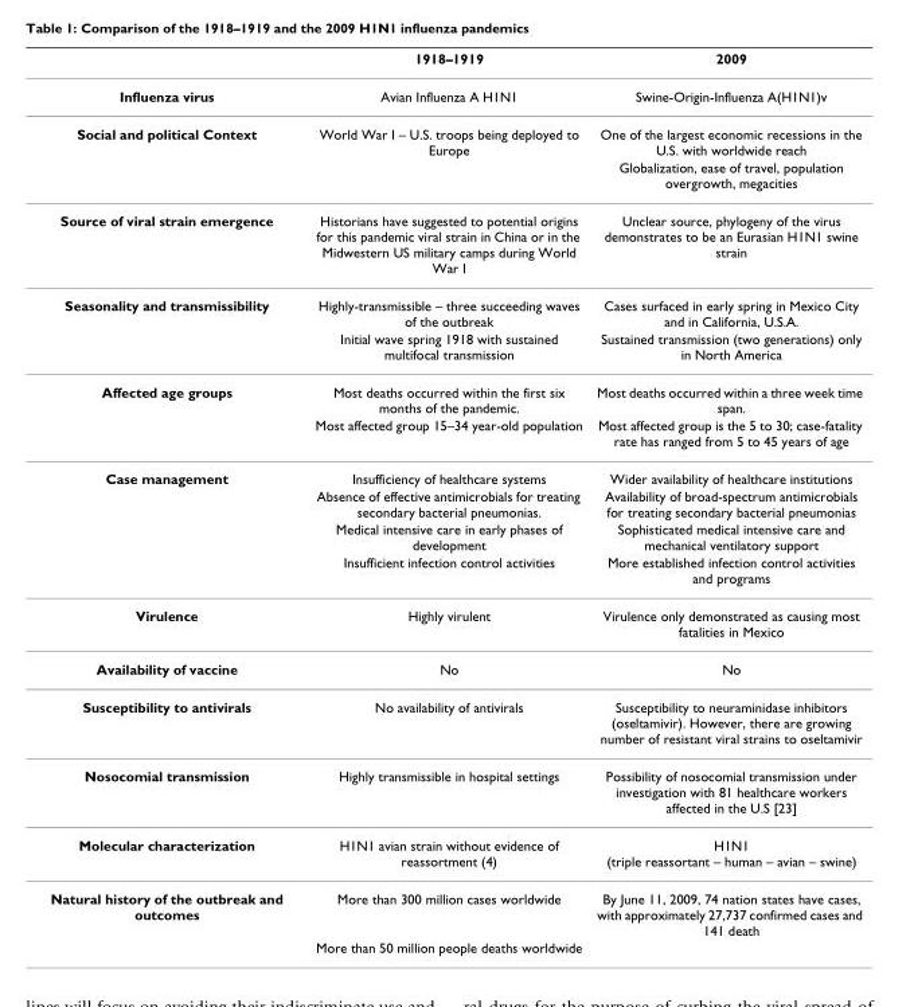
<table><thead><tr><td></td><td>1918–1919</td><td>2009</td></tr></thead><tbody><tr><td>Influenza virus</td><td>Avian Influenza A H1N1</td><td>Swine-Origin-Influenza A(H1N1)v</td></tr><tr><td rowspan="2">Social and political Context</td><td>World War I – U.S. troops being deployed to Europe</td><td>One of the largest economic recessions in the U.S. with worldwide reach</td></tr><tr><td></td><td>Globalization, ease of travel, population overgrowth, megacities</td></tr><tr><td>Source of viral strain emergence</td><td>Historians have suggested to potential origins for this pandemic viral strain in China or in the Midwestern US military camps during World War I</td><td>Unclear source, phylogeny of the virus demonstrates to be an Eurasian H1N1 swine strain</td></tr><tr><td rowspan="2">Seasonality and transmissibility</td><td>Highly-transmissible – three succeeding waves of the outbreak</td><td>Cases surfaced in early spring in Mexico City and in California, U.S.A.</td></tr><tr><td>Initial wave spring 1918 with sustained multifocal transmission</td><td>Sustained transmission (two generations) only in North America</td></tr><tr><td rowspan="2">Affected age groups</td><td>Most deaths occurred within the first six months of the pandemic.</td><td>Most deaths occurred within a three week time span.</td></tr><tr><td>Most affected group 15–34 year-old population</td><td>Most affected group is the 5 to 30; case-fatality rate has ranged from 5 to 45 years of age</td></tr><tr><td rowspan="4">Case management</td><td>Insufficiency of healthcare systems</td><td>Wider availability of healthcare institutions</td></tr><tr><td>Absence of effective antimicrobials for treating secondary bacterial pneumonias.</td><td>Availability of broad-spectrum antimicrobials for treating secondary bacterial pneumonias</td></tr><tr><td>Medical intensive care in early phases of development</td><td>Sophisticated medical intensive care and mechanical ventilatory support</td></tr><tr><td>Insufficient infection control activities</td><td>More established infection control activities and programs</td></tr><tr><td>Virulence</td><td>Highly virulent</td><td>Virulence only demonstrated as causing most fatalities in Mexico</td></tr><tr><td>Availability of vaccine</td><td>No</td><td>No</td></tr><tr><td>Susceptibility to antivirals</td><td>No availability of antivirals</td><td>Susceptibility to neuraminidase inhibitors (oseltamivir). However, there are growing number of resistant viral strains to oseltamivir</td></tr><tr><td>Nosocomial transmission</td><td>Highly transmissible in hospital settings</td><td>Possibility of nosocomial transmission under investigation with 81 healthcare workers affected in the U.S [23]</td></tr><tr><td>Molecular characterization</td><td>H1N1 avian strain without evidence of reassortment (4)</td><td>H1N1 (triple reassortant – human – avian – swine)</td></tr><tr><td rowspan="2">Natural history of the outbreak and outcomes</td><td>More than 300 million cases worldwide</td><td>By June 11, 2009, 74 nation states have cases, with approximately 27,737 confirmed cases and 141 death</td></tr><tr><td>More than 50 million people deaths worldwide</td><td></td></tr></tbody></table>